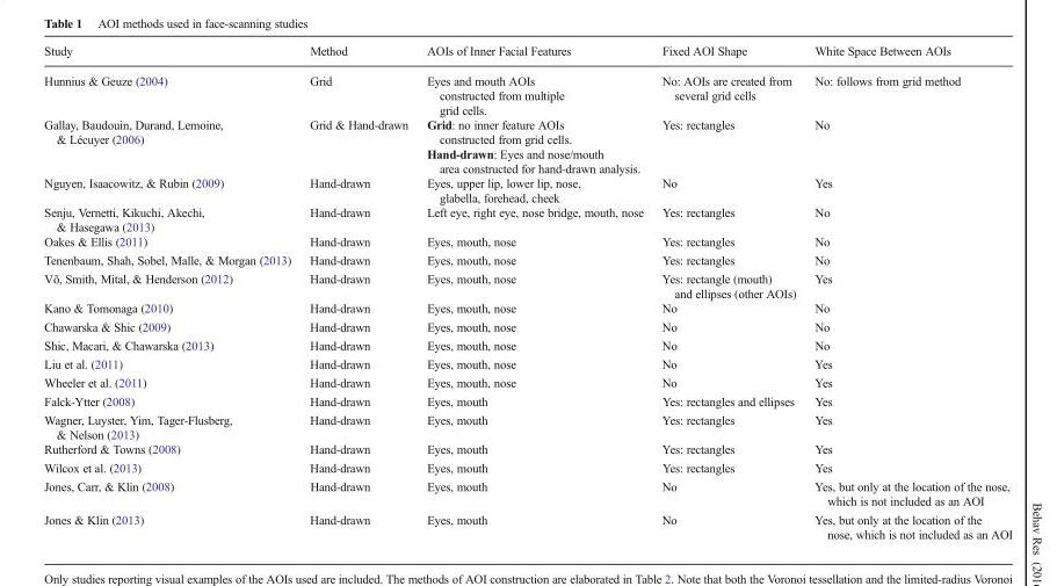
<table><thead><tr><td>Study</td><td>Method</td><td>AOIs of Inner Facial Features</td><td>Fixed AOI Shape</td><td>White Space Between AOIs</td></tr></thead><tbody><tr><td>Hunnius &amp; Geuze (2004)</td><td>Grid</td><td>Eyes and mouth AOIs constructed from multiple grid cells.</td><td>No: AOIs are created from several grid cells</td><td>No: follows from grid method</td></tr><tr><td rowspan="2">Gallay, Baudouin, Durand, Lemoine, &amp; Lécuyer (2006)</td><td>Grid &amp; Hand-drawn</td><td>Grid: no inner feature AOIs constructed from grid cells.</td><td>Yes: rectangles</td><td>No</td></tr><tr><td></td><td>Hand-drawn: Eyes and nose/mouth area constructed for hand-drawn analysis.</td><td></td><td></td></tr><tr><td>Nguyen, Isaacowitz, &amp; Rubin (2009)</td><td>Hand-drawn</td><td>Eyes, upper lip, lower lip, nose, glabella, forehead, cheek</td><td>No</td><td>Yes</td></tr><tr><td>Senju, Vernetti, Kikuchi, Akechi, &amp; Hasegawa (2013)</td><td>Hand-drawn</td><td>Left eye, right eye, nose bridge, mouth, nose</td><td>Yes: rectangles</td><td>No</td></tr><tr><td>Oakes &amp; Ellis (2011)</td><td>Hand-drawn</td><td>Eyes, mouth, nose</td><td>Yes: rectangles</td><td>No</td></tr><tr><td>Tenenbaum, Shah, Sobel, Malle, &amp; Morgan (2013)</td><td>Hand-drawn</td><td>Eyes, mouth, nose</td><td>Yes: rectangles</td><td>No</td></tr><tr><td>Võ, Smith, Mital, &amp; Henderson (2012)</td><td>Hand-drawn</td><td>Eyes, mouth, nose</td><td>Yes: rectangle (mouth) and ellipses (other AOIs)</td><td>Yes</td></tr><tr><td>Kano &amp; Tomonaga (2010)</td><td>Hand-drawn</td><td>Eyes, mouth, nose</td><td>No</td><td>No</td></tr><tr><td>Chawarska &amp; Shic (2009)</td><td>Hand-drawn</td><td>Eyes, mouth, nose</td><td>No</td><td>No</td></tr><tr><td>Shic, Macari, &amp; Chawarska (2013)</td><td>Hand-drawn</td><td>Eyes, mouth, nose</td><td>No</td><td>No</td></tr><tr><td>Liu et al. (2011)</td><td>Hand-drawn</td><td>Eyes, mouth, nose</td><td>No</td><td>Yes</td></tr><tr><td>Wheeler et al. (2011)</td><td>Hand-drawn</td><td>Eyes, mouth, nose</td><td>No</td><td>Yes</td></tr><tr><td>Falck-Ytter (2008)</td><td>Hand-drawn</td><td>Eyes, mouth</td><td>Yes: rectangles and ellipses</td><td>Yes</td></tr><tr><td>Wagner, Luyster, Yim, Tager-Flusberg, &amp; Nelson (2013)</td><td>Hand-drawn</td><td>Eyes, mouth</td><td>Yes: rectangles</td><td>Yes</td></tr><tr><td>Rutherford &amp; Towns (2008)</td><td>Hand-drawn</td><td>Eyes, mouth</td><td>Yes: rectangles</td><td>Yes</td></tr><tr><td>Wilcox et al. (2013)</td><td>Hand-drawn</td><td>Eyes, mouth</td><td>Yes: rectangles</td><td>Yes</td></tr><tr><td>Jones, Carr, &amp; Klin (2008)</td><td>Hand-drawn</td><td>Eyes, mouth</td><td>No</td><td>Yes, but only at the location of the nose, which is not included as an AOI</td></tr><tr><td>Jones &amp; Klin (2013)</td><td>Hand-drawn</td><td>Eyes, mouth</td><td>No</td><td>Yes, but only at the location of the nose, which is not included as an AOI</td></tr></tbody></table>